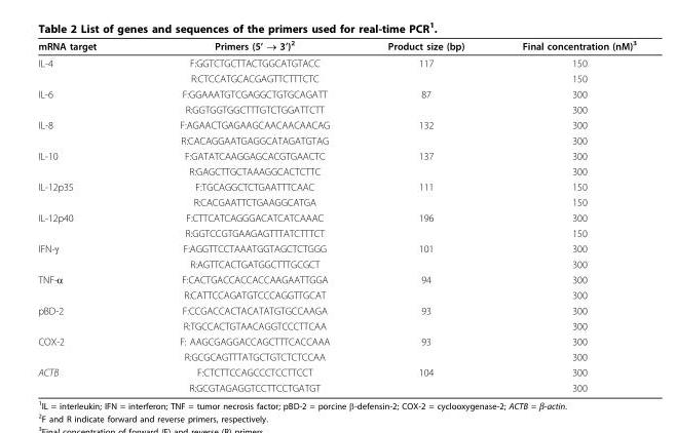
<table><thead><tr><td>mRNA target</td><td>Primers (5’ → 3’)<sup>2</sup></td><td>Product size (bp)</td><td>Final concentration (nM)<sup>3</sup></td></tr></thead><tbody><tr><td rowspan="2">IL-4</td><td>F:GGTCTGCTTACTGGCATGTACC</td><td>117</td><td>150</td></tr><tr><td>R:CTCCATGCACGAGTTCTTTCTC</td><td></td><td>150</td></tr><tr><td rowspan="2">IL-6</td><td>F:GGAAATGTCGAGGCTGTGCAGATT</td><td>87</td><td>300</td></tr><tr><td>R:GGTGGTGGCTTTGTCTGGATTCTT</td><td></td><td>300</td></tr><tr><td rowspan="2">IL-8</td><td>F:AGAACTGAGAAGCAACAACAACAG</td><td>132</td><td>300</td></tr><tr><td>R:CACAGGAATGAGGCATAGATGTAG</td><td></td><td>300</td></tr><tr><td rowspan="2">IL-10</td><td>F:GATATCAAGGAGCACGTGAACTC</td><td>137</td><td>300</td></tr><tr><td>R:GAGCTTGCTAAAGGCACTCTTC</td><td></td><td>300</td></tr><tr><td rowspan="2">IL-12p35</td><td>F:TGCAGGCTCTGAATTTCAAC</td><td>111</td><td>150</td></tr><tr><td>R:CACGAATTCTGAAGGCATGA</td><td></td><td>150</td></tr><tr><td rowspan="2">IL-12p40</td><td>F:CTTCATCAGGGACATCATCAAAC</td><td>196</td><td>300</td></tr><tr><td>R:GGTCCGTGAAGAGTTTATCTTTCT</td><td></td><td>150</td></tr><tr><td rowspan="2">IFN-γ</td><td>F:AGGTTCCTAAATGGTAGCTCTGGG</td><td>101</td><td>300</td></tr><tr><td>R:AGTTCACTGATGGCTTTGCGCT</td><td></td><td>300</td></tr><tr><td rowspan="2">TNF-α</td><td>F:CACTGACCACCACCAAGAATTGGA</td><td>94</td><td>300</td></tr><tr><td>R:CATTCCAGATGTCCCAGGTTGCAT</td><td></td><td>300</td></tr><tr><td rowspan="2">pBD-2</td><td>F:CCGACCACTACATATGTGCCAAGA</td><td>93</td><td>300</td></tr><tr><td>R:TGCCACTGTAACAGGTCCCTTCAA</td><td></td><td>300</td></tr><tr><td rowspan="2">COX-2</td><td>F: AAGCGAGGACCAGCTTTCACCAAA</td><td>93</td><td>300</td></tr><tr><td>R:GCGCAGTTTATGCTGTCTCTCCAA</td><td></td><td>300</td></tr><tr><td rowspan="2">ACTB</td><td>F:CTCTTCCAGCCCTCCTTCCT</td><td>104</td><td>300</td></tr><tr><td>R:GCGTAGAGGTCCTTCCTGATGT</td><td></td><td>300</td></tr></tbody></table>